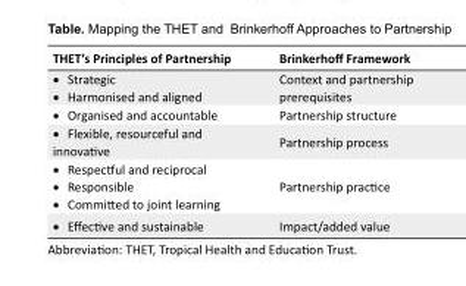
<table><tbody><tr><td>THET’s Principles of Partnership</td><td>Brinkerhoff Framework</td></tr><tr><td>• Strategic • Harmonised and aligned</td><td>Context and partnership prerequisites</td></tr><tr><td>• Organised and accountable</td><td>Partnership structure</td></tr><tr><td>• Flexible, resourceful and innovative</td><td>Partnership process</td></tr><tr><td>• Respectful and reciprocal • Responsible • Committed to joint learning</td><td>Partnership practice</td></tr><tr><td>• Effective and sustainable</td><td>Impact/added value</td></tr></tbody></table>